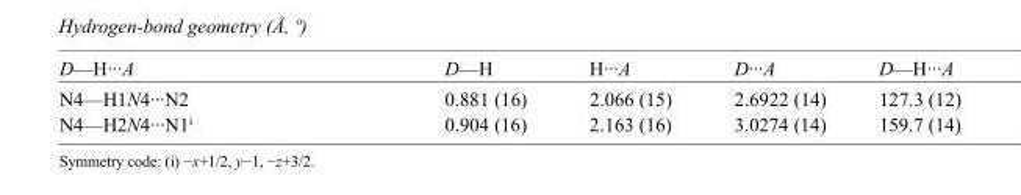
<table><tbody><tr><td>D—H···A</td><td>D—H</td><td>H···A</td><td>D···A</td><td>D—H···A</td></tr><tr><td>N4—H1N4···N2</td><td>0.881 (16)</td><td>2.066 (15)</td><td>2.6922 (14)</td><td>127.3 (12)</td></tr><tr><td>N4—H2N4···N1<sup>i</sup></td><td>0.904 (16)</td><td>2.163 (16)</td><td>3.0274 (14)</td><td>159.7 (14)</td></tr></tbody></table>